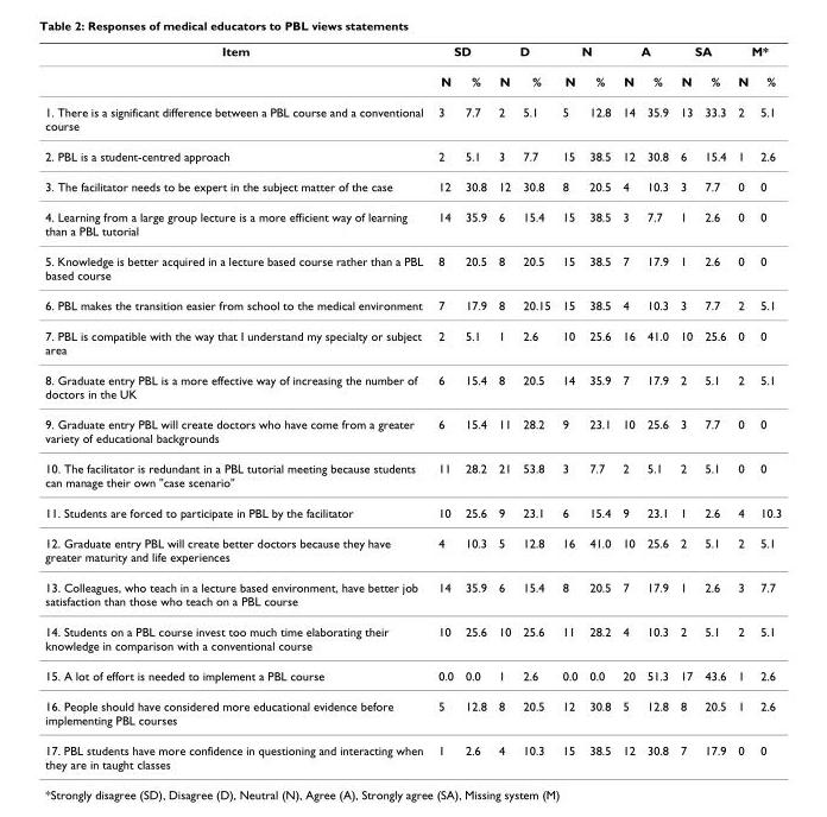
<table><thead><tr><td rowspan="2">Item</td><td colspan="2">SD</td><td colspan="2">D</td><td colspan="2">N</td><td colspan="2">A</td><td colspan="2">SA</td><td colspan="2">M*</td></tr><tr><td>N</td><td>%</td><td>N</td><td>%</td><td>N</td><td>%</td><td>N</td><td>%</td><td>N</td><td>%</td><td>N</td><td>%</td></tr></thead><tbody><tr><td>1. There is a significant difference between a PBL course and a conventional course</td><td>3</td><td>7.7</td><td>2</td><td>5.1</td><td>5</td><td>12.8</td><td>14</td><td>35.9</td><td>13</td><td>33.3</td><td>2</td><td>5.1</td></tr><tr><td>2. PBL is a student-centred approach</td><td>2</td><td>5.1</td><td>3</td><td>7.7</td><td>15</td><td>38.5</td><td>12</td><td>30.8</td><td>6</td><td>15.4</td><td>1</td><td>2.6</td></tr><tr><td>3. The facilitator needs to be expert in the subject matter of the case</td><td>12</td><td>30.8</td><td>12</td><td>30.8</td><td>8</td><td>20.5</td><td>4</td><td>10.3</td><td>3</td><td>7.7</td><td>0</td><td>0</td></tr><tr><td>4. Learning from a large group lecture is a more efficient way of learning than a PBL tutorial</td><td>14</td><td>35.9</td><td>6</td><td>15.4</td><td>15</td><td>38.5</td><td>3</td><td>7.7</td><td>1</td><td>2.6</td><td>0</td><td>0</td></tr><tr><td>5. Knowledge is better acquired in a lecture based course rather than a PBL based course</td><td>8</td><td>20.5</td><td>8</td><td>20.5</td><td>15</td><td>38.5</td><td>7</td><td>17.9</td><td>1</td><td>2.6</td><td>0</td><td>0</td></tr><tr><td>6. PBL makes the transition easier from school to the medical environment</td><td>7</td><td>17.9</td><td>8</td><td>20.15</td><td>15</td><td>38.5</td><td>4</td><td>10.3</td><td>3</td><td>7.7</td><td>2</td><td>5.1</td></tr><tr><td>7. PBL is compatible with the way that I understand my specialty or subject area</td><td>2</td><td>5.1</td><td>1</td><td>2.6</td><td>10</td><td>25.6</td><td>16</td><td>41.0</td><td>10</td><td>25.6</td><td>0</td><td>0</td></tr><tr><td>8. Graduate entry PBL is a more effective way of increasing the number of doctors in the UK</td><td>6</td><td>15.4</td><td>8</td><td>20.5</td><td>14</td><td>35.9</td><td>7</td><td>17.9</td><td>2</td><td>5.1</td><td>2</td><td>5.1</td></tr><tr><td>9. Graduate entry PBL will create doctors who have come from a greater variety of educational backgrounds</td><td>6</td><td>15.4</td><td>11</td><td>28.2</td><td>9</td><td>23.1</td><td>10</td><td>25.6</td><td>3</td><td>7.7</td><td>0</td><td>0</td></tr><tr><td>10. The facilitator is redundant in a PBL tutorial meeting because students can manage their own &quot;case scenario&quot;</td><td>11</td><td>28.2</td><td>21</td><td>53.8</td><td>3</td><td>7.7</td><td>2</td><td>5.1</td><td>2</td><td>5.1</td><td>0</td><td>0</td></tr><tr><td>11. Students are forced to participate in PBL by the facilitator</td><td>10</td><td>25.6</td><td>9</td><td>23.1</td><td>6</td><td>15.4</td><td>9</td><td>23.1</td><td>1</td><td>2.6</td><td>4</td><td>10.3</td></tr><tr><td>12. Graduate entry PBL will create better doctors because they have greater maturity and life experiences</td><td>4</td><td>10.3</td><td>5</td><td>12.8</td><td>16</td><td>41.0</td><td>10</td><td>25.6</td><td>2</td><td>5.1</td><td>2</td><td>5.1</td></tr><tr><td>13. Colleagues, who teach in a lecture based environment, have better job satisfaction than those who teach on a PBL course</td><td>14</td><td>35.9</td><td>6</td><td>15.4</td><td>8</td><td>20.5</td><td>7</td><td>17.9</td><td>1</td><td>2.6</td><td>3</td><td>7.7</td></tr><tr><td>14. Students on a PBL course invest too much time elaborating their knowledge in comparison with a conventional course</td><td>10</td><td>25.6</td><td>10</td><td>25.6</td><td>11</td><td>28.2</td><td>4</td><td>10.3</td><td>2</td><td>5.1</td><td>2</td><td>5.1</td></tr><tr><td>15. A lot of effort is needed to implement a PBL course</td><td>0.0</td><td>0.0</td><td>1</td><td>2.6</td><td>0.0</td><td>0.0</td><td>20</td><td>51.3</td><td>17</td><td>43.6</td><td>1</td><td>2.6</td></tr><tr><td>16. People should have considered more educational evidence before implementing PBL courses</td><td>5</td><td>12.8</td><td>8</td><td>20.5</td><td>12</td><td>30.8</td><td>5</td><td>12.8</td><td>8</td><td>20.5</td><td>1</td><td>2.6</td></tr><tr><td>17. PBL students have more confidence in questioning and interacting when they are in taught classes</td><td>1</td><td>2.6</td><td>4</td><td>10.3</td><td>15</td><td>38.5</td><td>12</td><td>30.8</td><td>7</td><td>17.9</td><td>0</td><td>0</td></tr></tbody></table>